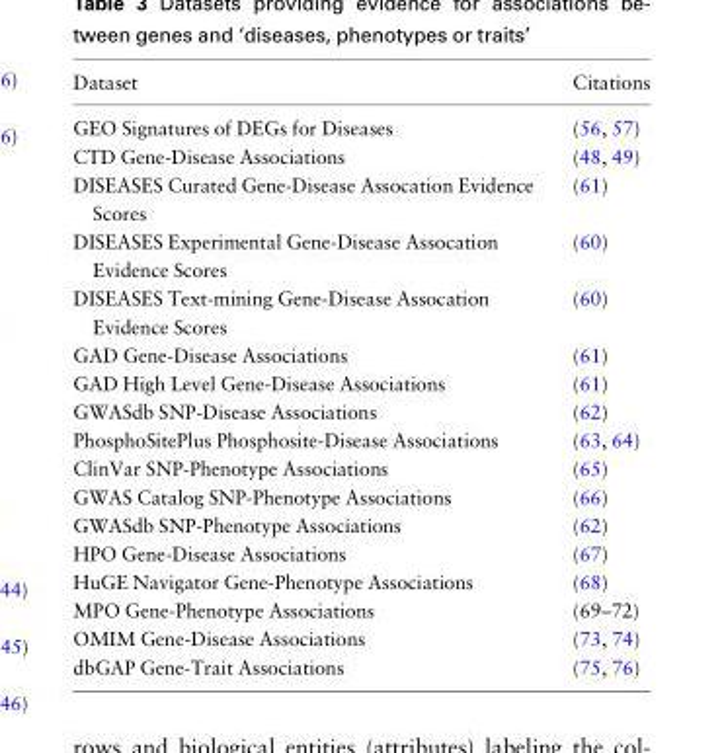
<table><thead><tr><td>Dataset</td><td>Citations</td></tr></thead><tbody><tr><td>GEO Signatures of DEGs for Diseases</td><td>(56, 57)</td></tr><tr><td>CTD Gene-Disease Associations</td><td>(48, 49)</td></tr><tr><td>DISEASES Curated Gene-Disease Assocation Evidence Scores</td><td>(61)</td></tr><tr><td>DISEASES Experimental Gene-Disease Assocation Evidence Scores</td><td>(60)</td></tr><tr><td>DISEASES Text-mining Gene-Disease Assocation Evidence Scores</td><td>(60)</td></tr><tr><td>GAD Gene-Disease Associations</td><td>(61)</td></tr><tr><td>GAD High Level Gene-Disease Associations</td><td>(61)</td></tr><tr><td>GWASdb SNP-Disease Associations</td><td>(62)</td></tr><tr><td>PhosphoSitePlus Phosphosite-Disease Associations</td><td>(63, 64)</td></tr><tr><td>ClinVar SNP-Phenotype Associations</td><td>(65)</td></tr><tr><td>GWAS Catalog SNP-Phenotype Associations</td><td>(66)</td></tr><tr><td>GWASdb SNP-Phenotype Associations</td><td>(62)</td></tr><tr><td>HPO Gene-Disease Associations</td><td>(67)</td></tr><tr><td>HuGE Navigator Gene-Phenotype Associations</td><td>(68)</td></tr><tr><td>MPO Gene-Phenotype Associations</td><td>(69–72)</td></tr><tr><td>OMIM Gene-Disease Associations</td><td>(73, 74)</td></tr><tr><td>dbGAP Gene-Trait Associations</td><td>(75, 76)</td></tr></tbody></table>